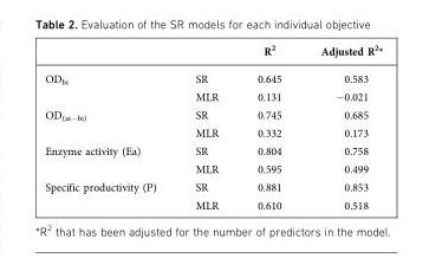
<table><thead><tr><td></td><td></td><td>R<sup>2</sup></td><td>Adjusted R<sup>2</sup>*</td></tr></thead><tbody><tr><td rowspan="2">OD<sub>bi</sub></td><td>SR</td><td>0.645</td><td>0.583</td></tr><tr><td>MLR</td><td>0.131</td><td>−0.021</td></tr><tr><td rowspan="2">OD<sub>(ai−bi)</sub></td><td>SR</td><td>0.745</td><td>0.685</td></tr><tr><td>MLR</td><td>0.332</td><td>0.173</td></tr><tr><td rowspan="2">Enzyme activity (Ea)</td><td>SR</td><td>0.804</td><td>0.758</td></tr><tr><td>MLR</td><td>0.595</td><td>0.499</td></tr><tr><td rowspan="2">Specific productivity (P)</td><td>SR</td><td>0.881</td><td>0.853</td></tr><tr><td>MLR</td><td>0.610</td><td>0.518</td></tr></tbody></table>